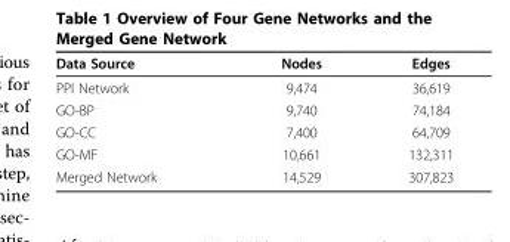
<table><thead><tr><td>Data Source</td><td>Nodes</td><td>Edges</td></tr></thead><tbody><tr><td>PPI Network</td><td>9,474</td><td>36,619</td></tr><tr><td>GO-BP</td><td>9,740</td><td>74,184</td></tr><tr><td>GO-CC</td><td>7,400</td><td>64,709</td></tr><tr><td>GO-MF</td><td>10,661</td><td>132,311</td></tr><tr><td>Merged Network</td><td>14,529</td><td>307,823</td></tr></tbody></table>